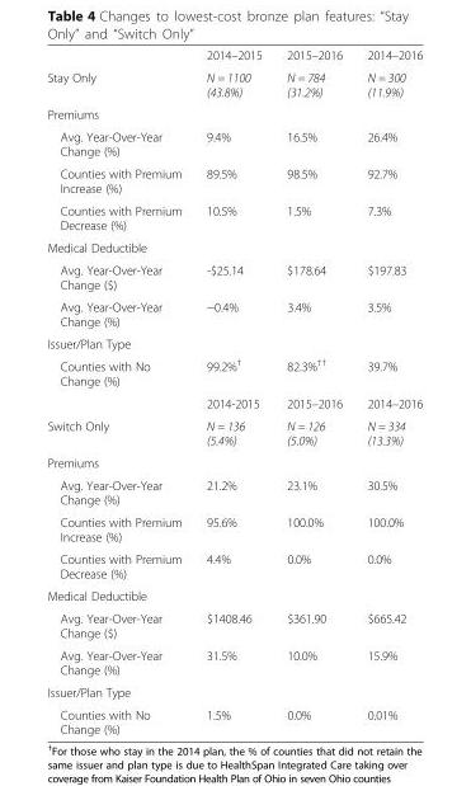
<table><thead><tr><td></td><td>2014–2015</td><td>2015–2016</td><td>2014–2016</td></tr></thead><tbody><tr><td>Stay Only</td><td>N = 1100 (43.8%)</td><td>N = 784 (31.2%)</td><td>N = 300 (11.9%)</td></tr><tr><td colspan="4">Premiums</td></tr><tr><td>Avg. Year-Over-Year Change (%)</td><td>9.4%</td><td>16.5%</td><td>26.4%</td></tr><tr><td>Counties with Premium Increase (%)</td><td>89.5%</td><td>98.5%</td><td>92.7%</td></tr><tr><td>Counties with Premium Decrease (%)</td><td>10.5%</td><td>1.5%</td><td>7.3%</td></tr><tr><td colspan="4">Medical Deductible</td></tr><tr><td>Avg. Year-Over-Year Change ($)</td><td>-$25.14</td><td>$178.64</td><td>$197.83</td></tr><tr><td>Avg. Year-Over-Year Change (%)</td><td>−0.4%</td><td>3.4%</td><td>3.5%</td></tr><tr><td colspan="4">Issuer/Plan Type</td></tr><tr><td rowspan="2">Counties with No Change (%)</td><td>99.2%<sup>†</sup></td><td>82.3%<sup>††</sup></td><td>39.7%</td></tr><tr><td>2014-2015</td><td>2015–2016</td><td>2014–2016</td></tr><tr><td>Switch Only</td><td>N = 136 (5.4%)</td><td>N = 126 (5.0%)</td><td>N = 334 (13.3%)</td></tr><tr><td colspan="4">Premiums</td></tr><tr><td>Avg. Year-Over-Year Change (%)</td><td>21.2%</td><td>23.1%</td><td>30.5%</td></tr><tr><td>Counties with Premium Increase (%)</td><td>95.6%</td><td>100.0%</td><td>100.0%</td></tr><tr><td>Counties with Premium Decrease (%)</td><td>4.4%</td><td>0.0%</td><td>0.0%</td></tr><tr><td colspan="4">Medical Deductible</td></tr><tr><td>Avg. Year-Over-Year Change ($)</td><td>$1408.46</td><td>$361.90</td><td>$665.42</td></tr><tr><td>Avg. Year-Over-Year Change (%)</td><td>31.5%</td><td>10.0%</td><td>15.9%</td></tr><tr><td colspan="4">Issuer/Plan Type</td></tr><tr><td>Counties with No Change (%)</td><td>1.5%</td><td>0.0%</td><td>0.01%</td></tr></tbody></table>